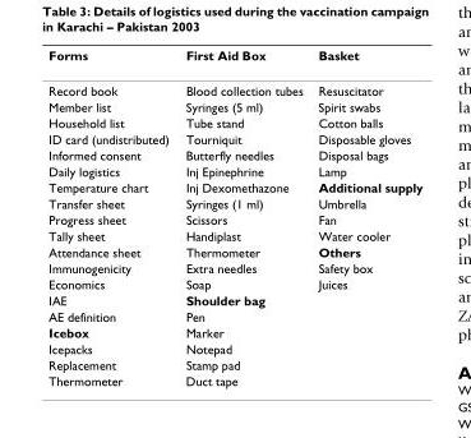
<table><thead><tr><td>Forms</td><td>First Aid Box</td><td>Basket</td></tr></thead><tbody><tr><td>Record book</td><td>Blood collection tubes</td><td>Resuscitator</td></tr><tr><td>Member list</td><td>Syringes (5 ml)</td><td>Spirit swabs</td></tr><tr><td>Household list</td><td>Tube stand</td><td>Cotton balls</td></tr><tr><td>ID card (undistributed)</td><td>Tourniquit</td><td>Disposable gloves</td></tr><tr><td>Informed consent</td><td>Butterfly needles</td><td>Disposal bags</td></tr><tr><td>Daily logistics</td><td>Inj Epinephrine</td><td>Lamp</td></tr><tr><td>Temperature chart</td><td>Inj Dexomethazone</td><td>Additional supply</td></tr><tr><td>Transfer sheet</td><td>Syringes (1 ml)</td><td>Umbrella</td></tr><tr><td>Progress sheet</td><td>Scissors</td><td>Fan</td></tr><tr><td>Tally sheet</td><td>Handiplast</td><td>Water cooler</td></tr><tr><td>Attendance sheet</td><td>Thermometer</td><td>Others</td></tr><tr><td>Immunogenicity</td><td>Extra needles</td><td>Safety box</td></tr><tr><td>Economics</td><td>Soap</td><td>Juices</td></tr><tr><td>IAE</td><td>Shoulder bag</td><td></td></tr><tr><td>AE definition</td><td>Pen</td><td></td></tr><tr><td>Icebox</td><td>Marker</td><td></td></tr><tr><td>Icepacks</td><td>Notepad</td><td></td></tr><tr><td>Replacement</td><td>Stamp pad</td><td></td></tr><tr><td>Thermometer</td><td>Duct tape</td><td></td></tr></tbody></table>